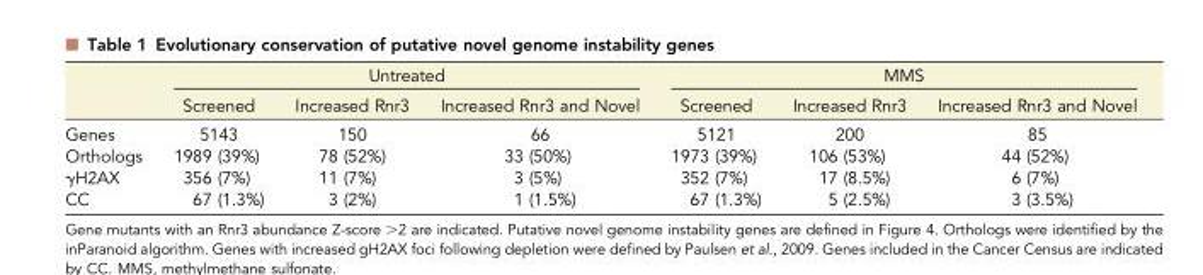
<table><thead><tr><td rowspan="2"></td><td colspan="3">Untreated</td><td colspan="3">MMS</td></tr><tr><td>Screened</td><td>Increased Rnr3</td><td>Increased Rnr3 and Novel</td><td>Screened</td><td>Increased Rnr3</td><td>Increased Rnr3 and Novel</td></tr></thead><tbody><tr><td>Genes</td><td>5143</td><td>150</td><td>66</td><td>5121</td><td>200</td><td>85</td></tr><tr><td>Orthologs</td><td>1989 (39%)</td><td>78 (52%)</td><td>33 (50%)</td><td>1973 (39%)</td><td>106 (53%)</td><td>44 (52%)</td></tr><tr><td>γH2AX</td><td>356 (7%)</td><td>11 (7%)</td><td>3 (5%)</td><td>352 (7%)</td><td>17 (8.5%)</td><td>6 (7%)</td></tr><tr><td>CC</td><td>67 (1.3%)</td><td>3 (2%)</td><td>1 (1.5%)</td><td>67 (1.3%)</td><td>5 (2.5%)</td><td>3 (3.5%)</td></tr></tbody></table>